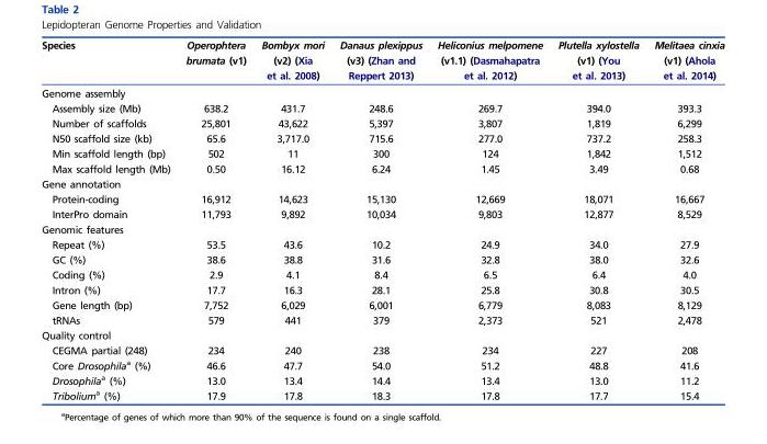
<table><thead><tr><td>Species</td><td>Operophtera brumata (v1)</td><td>Bombyx mori (v2) (Xia et al. 2008)</td><td>Danaus plexippus (v3) (Zhan and Reppert 2013)</td><td>Heliconius melpomene (v1.1) (Dasmahapatra et al. 2012)</td><td>Plutella xylostella (v1) (You et al. 2013)</td><td>Melitaea cinxia (v1) (Ahola et al. 2014)</td></tr></thead><tbody><tr><td colspan="7">Genome assembly</td></tr><tr><td>Assembly size (Mb)</td><td>638.2</td><td>431.7</td><td>248.6</td><td>269.7</td><td>394.0</td><td>393.3</td></tr><tr><td>Number of scaffolds</td><td>25,801</td><td>43,622</td><td>5,397</td><td>3,807</td><td>1,819</td><td>6,299</td></tr><tr><td>N50 scaffold size (kb)</td><td>65.6</td><td>3,717.0</td><td>715.6</td><td>277.0</td><td>737.2</td><td>258.3</td></tr><tr><td>Min scaffold length (bp)</td><td>502</td><td>11</td><td>300</td><td>124</td><td>1,842</td><td>1,512</td></tr><tr><td>Max scaffold length (Mb)</td><td>0.50</td><td>16.12</td><td>6.24</td><td>1.45</td><td>3.49</td><td>0.68</td></tr><tr><td colspan="7">Gene annotation</td></tr><tr><td>Protein-coding</td><td>16,912</td><td>14,623</td><td>15,130</td><td>12,669</td><td>18,071</td><td>16,667</td></tr><tr><td>InterPro domain</td><td>11,793</td><td>9,892</td><td>10,034</td><td>9,803</td><td>12,877</td><td>8,529</td></tr><tr><td colspan="7">Genomic features</td></tr><tr><td>Repeat (%)</td><td>53.5</td><td>43.6</td><td>10.2</td><td>24.9</td><td>34.0</td><td>27.9</td></tr><tr><td>GC (%)</td><td>38.6</td><td>38.8</td><td>31.6</td><td>32.8</td><td>38.0</td><td>32.6</td></tr><tr><td>Coding (%)</td><td>2.9</td><td>4.1</td><td>8.4</td><td>6.5</td><td>6.4</td><td>4.0</td></tr><tr><td>Intron (%)</td><td>17.7</td><td>16.3</td><td>28.1</td><td>25.8</td><td>30.8</td><td>30.5</td></tr><tr><td>Gene length (bp)</td><td>7,752</td><td>6,029</td><td>6,001</td><td>6,779</td><td>8,083</td><td>8,129</td></tr><tr><td>tRNAs</td><td>579</td><td>441</td><td>379</td><td>2,373</td><td>521</td><td>2,478</td></tr><tr><td colspan="7">Quality control</td></tr><tr><td>CEGMA partial (248)</td><td>234</td><td>240</td><td>238</td><td>234</td><td>227</td><td>208</td></tr><tr><td>Core Drosophila<sup>a</sup> (%)</td><td>46.6</td><td>47.7</td><td>54.0</td><td>51.2</td><td>48.8</td><td>41.6</td></tr><tr><td>Drosophila<sup>a</sup> (%)</td><td>13.0</td><td>13.4</td><td>14.4</td><td>13.4</td><td>13.0</td><td>11.2</td></tr><tr><td>Tribolium<sup>a</sup> (%)</td><td>17.9</td><td>17.8</td><td>18.3</td><td>17.8</td><td>17.7</td><td>15.4</td></tr></tbody></table>